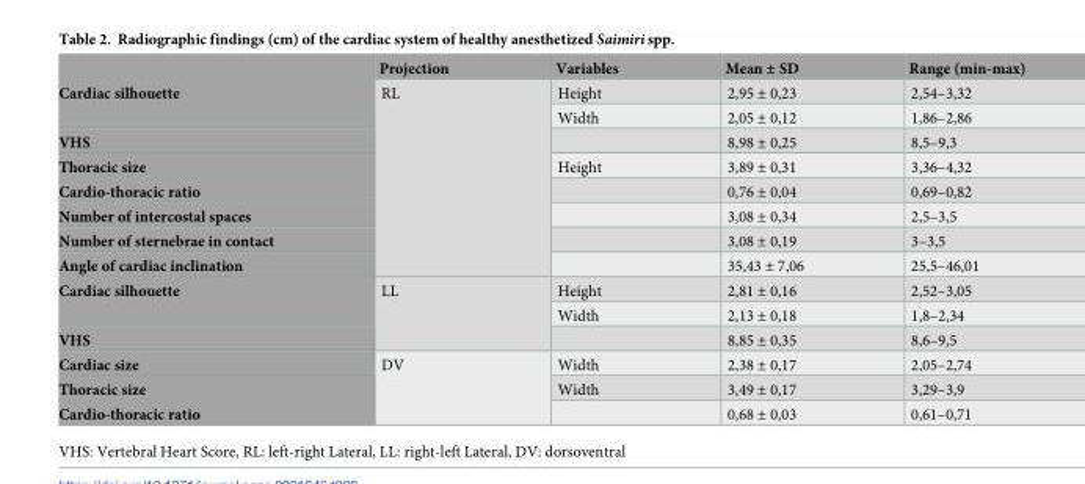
<table><thead><tr><td></td><td>Projection</td><td>Variables</td><td>Mean ± SD</td><td>Range (min-max)</td></tr></thead><tbody><tr><td rowspan="2">Cardiac silhouette</td><td rowspan="8">RL</td><td>Height</td><td>2,95 ± 0,23</td><td>2,54–3,32</td></tr><tr><td>Width</td><td>2,05 ± 0,12</td><td>1,86–2,86</td></tr><tr><td>VHS</td><td></td><td>8,98 ± 0,25</td><td>8,5–9,3</td></tr><tr><td>Thoracic size</td><td>Height</td><td>3,89 ± 0,31</td><td>3,36–4,32</td></tr><tr><td>Cardio-thoracic ratio</td><td></td><td>0,76 ± 0,04</td><td>0,69–0,82</td></tr><tr><td>Number of intercostal spaces</td><td></td><td>3,08 ± 0,34</td><td>2,5–3,5</td></tr><tr><td>Number of sternebrae in contact</td><td></td><td>3,08 ± 0,19</td><td>3–3,5</td></tr><tr><td>Angle of cardiac inclination</td><td></td><td>35,43 ± 7,06</td><td>25,5–46,01</td></tr><tr><td rowspan="2">Cardiac silhouette</td><td rowspan="3">LL</td><td>Height</td><td>2,81 ± 0,16</td><td>2,52–3,05</td></tr><tr><td>Width</td><td>2,13 ± 0,18</td><td>1,8–2,34</td></tr><tr><td>VHS</td><td></td><td>8,85 ± 0,35</td><td>8,6–9,5</td></tr><tr><td>Cardiac size</td><td rowspan="3">DV</td><td>Width</td><td>2,38 ± 0,17</td><td>2,05–2,74</td></tr><tr><td>Thoracic size</td><td>Width</td><td>3,49 ± 0,17</td><td>3,29–3,9</td></tr><tr><td>Cardio-thoracic ratio</td><td></td><td>0,68 ± 0,03</td><td>0,61–0,71</td></tr></tbody></table>